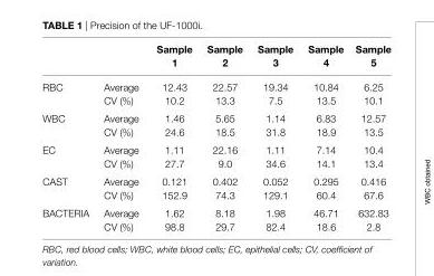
<table><thead><tr><td></td><td></td><td>Sample 1</td><td>Sample 2</td><td>Sample 3</td><td>Sample 4</td><td>Sample 5</td></tr></thead><tbody><tr><td rowspan="2">RBC</td><td>Average</td><td>12.43</td><td>22.57</td><td>19.34</td><td>10.84</td><td>6.25</td></tr><tr><td>CV (%)</td><td>10.2</td><td>13.3</td><td>7.5</td><td>13.5</td><td>10.1</td></tr><tr><td rowspan="2">WBC</td><td>Average</td><td>1.46</td><td>5.65</td><td>1.14</td><td>6.83</td><td>12.57</td></tr><tr><td>CV (%)</td><td>24.6</td><td>18.5</td><td>31.8</td><td>18.9</td><td>13.5</td></tr><tr><td rowspan="2">EC</td><td>Average</td><td>1.11</td><td>22.16</td><td>1.11</td><td>7.14</td><td>10.4</td></tr><tr><td>CV (%)</td><td>27.7</td><td>9.0</td><td>34.6</td><td>14.1</td><td>13.4</td></tr><tr><td rowspan="2">CAST</td><td>Average</td><td>0.121</td><td>0.402</td><td>0.052</td><td>0.295</td><td>0.416</td></tr><tr><td>CV (%)</td><td>152.9</td><td>74.3</td><td>129.1</td><td>60.4</td><td>67.6</td></tr><tr><td rowspan="2">BACTERIA</td><td>Average</td><td>1.62</td><td>8.18</td><td>1.98</td><td>46.71</td><td>632.83</td></tr><tr><td>CV (%)</td><td>98.8</td><td>29.7</td><td>82.4</td><td>18.6</td><td>2.8</td></tr></tbody></table>